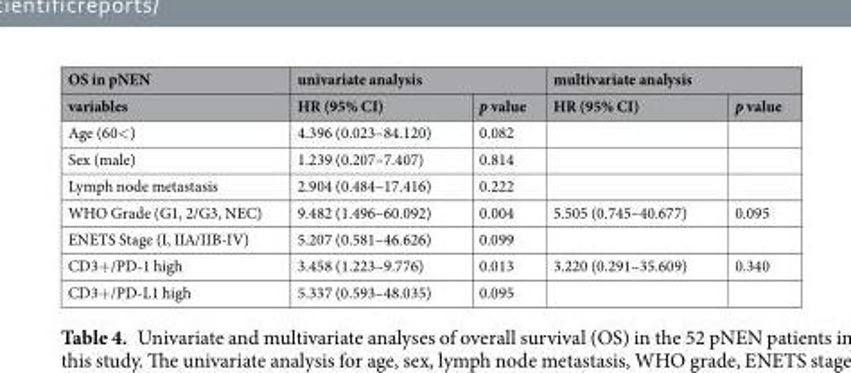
<table><thead><tr><td rowspan="2">OS in pNEN variables</td><td colspan="2">univariate analysis</td><td colspan="2">multivariate analysis</td></tr><tr><td>HR (95% CI)</td><td>p value</td><td>HR (95% CI)</td><td>p value</td></tr></thead><tbody><tr><td>Age (60&lt;)</td><td>4.396 (0.023–84.120)</td><td>0.082</td><td></td><td></td></tr><tr><td>Sex (male)</td><td>1.239 (0.207–7.407)</td><td>0.814</td><td></td><td></td></tr><tr><td>Lymph node metastasis</td><td>2.904 (0.484–17.416)</td><td>0.222</td><td></td><td></td></tr><tr><td>WHO Grade (G1, 2/G3, NEC)</td><td>9.482 (1.496–60.092)</td><td>0.004</td><td>5.505 (0.745–40.677)</td><td>0.095</td></tr><tr><td>ENETS Stage (I, IIA/IIB-IV)</td><td>5.207 (0.581–46.626)</td><td>0.099</td><td></td><td></td></tr><tr><td>CD3+/PD-1 high</td><td>3.458 (1.223–9.776)</td><td>0.013</td><td>3.220 (0.291–35.609)</td><td>0.340</td></tr><tr><td>CD3+/PD-L1 high</td><td>5.337 (0.593–48.035)</td><td>0.095</td><td></td><td></td></tr></tbody></table>